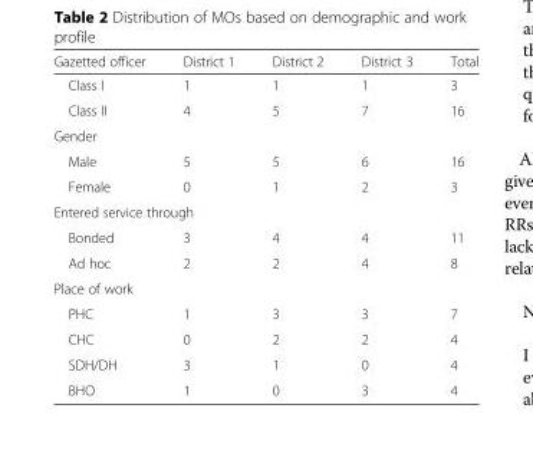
<table><thead><tr><td>Gazetted officer</td><td>District 1</td><td>District 2</td><td>District 3</td><td>Total</td></tr></thead><tbody><tr><td>Class I</td><td>1</td><td>1</td><td>1</td><td>3</td></tr><tr><td>Class II</td><td>4</td><td>5</td><td>7</td><td>16</td></tr><tr><td colspan="5">Gender</td></tr><tr><td>Male</td><td>5</td><td>5</td><td>6</td><td>16</td></tr><tr><td>Female</td><td>0</td><td>1</td><td>2</td><td>3</td></tr><tr><td colspan="5">Entered service through</td></tr><tr><td>Bonded</td><td>3</td><td>4</td><td>4</td><td>11</td></tr><tr><td>Ad hoc</td><td>2</td><td>2</td><td>4</td><td>8</td></tr><tr><td colspan="5">Place of work</td></tr><tr><td>PHC</td><td>1</td><td>3</td><td>3</td><td>7</td></tr><tr><td>CHC</td><td>0</td><td>2</td><td>2</td><td>4</td></tr><tr><td>SDH/DH</td><td>3</td><td>1</td><td>0</td><td>4</td></tr><tr><td>BHO</td><td>1</td><td>0</td><td>3</td><td>4</td></tr></tbody></table>